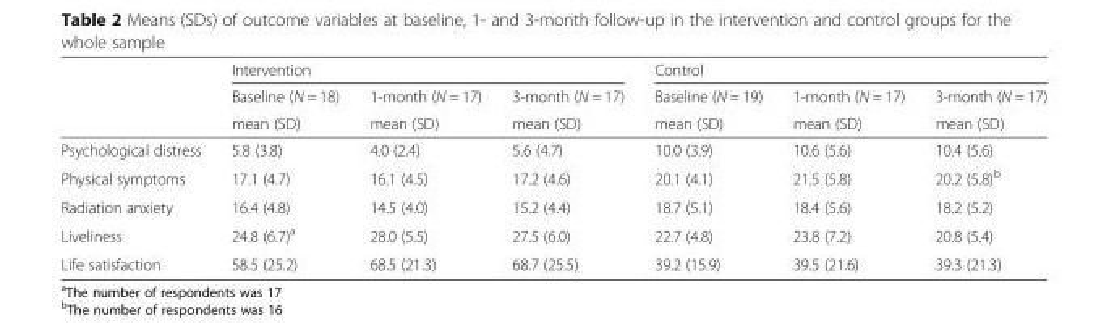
<table><thead><tr><td rowspan="3"></td><td colspan="3">Intervention</td><td colspan="3">Control</td></tr><tr><td rowspan="2">Baseline (N = 18) mean (SD)</td><td rowspan="2">1-month (N = 17) mean (SD)</td><td rowspan="2">3-month (N = 17) mean (SD)</td><td rowspan="2">Baseline (N = 19) mean (SD)</td><td rowspan="2">1-month (N = 17) mean (SD)</td><td rowspan="2">3-month (N = 17) mean (SD)</td></tr><tr></tr></thead><tbody><tr><td>Psychological distress</td><td>5.8 (3.8)</td><td>4.0 (2.4)</td><td>5.6 (4.7)</td><td>10.0 (3.9)</td><td>10.6 (5.6)</td><td>10.4 (5.6)</td></tr><tr><td>Physical symptoms</td><td>17.1 (4.7)</td><td>16.1 (4.5)</td><td>17.2 (4.6)</td><td>20.1 (4.1)</td><td>21.5 (5.8)</td><td>20.2 (5.8)<sup>b</sup></td></tr><tr><td>Radiation anxiety</td><td>16.4 (4.8)</td><td>14.5 (4.0)</td><td>15.2 (4.4)</td><td>18.7 (5.1)</td><td>18.4 (5.6)</td><td>18.2 (5.2)</td></tr><tr><td>Liveliness</td><td>24.8 (6.7)<sup>a</sup></td><td>28.0 (5.5)</td><td>27.5 (6.0)</td><td>22.7 (4.8)</td><td>23.8 (7.2)</td><td>20.8 (5.4)</td></tr><tr><td>Life satisfaction</td><td>58.5 (25.2)</td><td>68.5 (21.3)</td><td>68.7 (25.5)</td><td>39.2 (15.9)</td><td>39.5 (21.6)</td><td>39.3 (21.3)</td></tr></tbody></table>